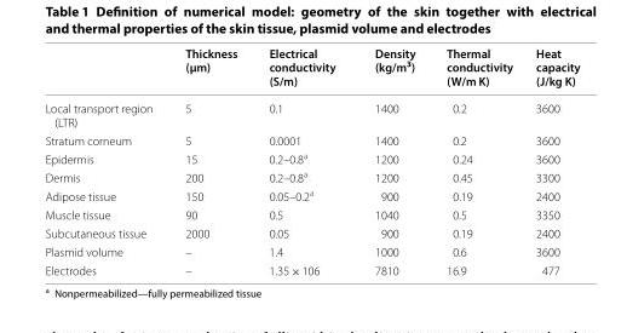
<table><thead><tr><td></td><td>Thickness (μm)</td><td>Electrical conductivity (S/m)</td><td>Density (kg/m<sup>3</sup>)</td><td>Thermal conductivity (W/m K)</td><td>Heat capacity (J/kg K)</td></tr></thead><tbody><tr><td>Local transport region (LTR)</td><td>5</td><td>0.1</td><td>1400</td><td>0.2</td><td>3600</td></tr><tr><td>Stratum corneum</td><td>5</td><td>0.0001</td><td>1400</td><td>0.2</td><td>3600</td></tr><tr><td>Epidermis</td><td>15</td><td>0.2–0.8<sup>a</sup></td><td>1200</td><td>0.24</td><td>3600</td></tr><tr><td>Dermis</td><td>200</td><td>0.2–0.8<sup>a</sup></td><td>1200</td><td>0.45</td><td>3300</td></tr><tr><td>Adipose tissue</td><td>150</td><td>0.05–0.2<sup>a</sup></td><td>900</td><td>0.19</td><td>2400</td></tr><tr><td>Muscle tissue</td><td>90</td><td>0.5</td><td>1040</td><td>0.5</td><td>3350</td></tr><tr><td>Subcutaneous tissue</td><td>2000</td><td>0.05</td><td>900</td><td>0.19</td><td>2400</td></tr><tr><td>Plasmid volume</td><td>–</td><td>1.4</td><td>1000</td><td>0.6</td><td>3600</td></tr><tr><td>Electrodes</td><td>–</td><td>1.35 × 106</td><td>7810</td><td>16.9</td><td>477</td></tr></tbody></table>